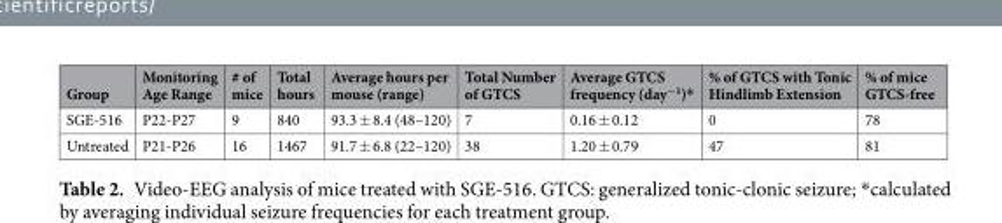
<table><thead><tr><td>Group</td><td>Monitoring Age Range</td><td># of mice</td><td>Total hours</td><td>Average hours per mouse (range)</td><td>Total Number of GTCS</td><td>Average GTCS frequency (day<sup>−1</sup>)*</td><td>% of GTCS with Tonic Hindlimb Extension</td><td>% of mice GTCS-free</td></tr></thead><tbody><tr><td>SGE-516</td><td>P22-P27</td><td>9</td><td>840</td><td>93.3 ± 8.4 (48–120)</td><td>7</td><td>0.16 ± 0.12</td><td>0</td><td>78</td></tr><tr><td>Untreated</td><td>P21-P26</td><td>16</td><td>1467</td><td>91.7 ± 6.8 (22–120)</td><td>38</td><td>1.20 ± 0.79</td><td>47</td><td>81</td></tr></tbody></table>